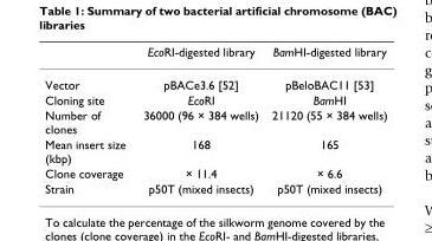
<table><thead><tr><td></td><td>EcoRI-digested library</td><td>BamHI-digested library</td></tr></thead><tbody><tr><td>Vector</td><td>pBACe3.6 [52]</td><td>pBeloBAC11 [53]</td></tr><tr><td>Cloning site</td><td>EcoRI</td><td>BamHI</td></tr><tr><td>Number of clones</td><td>36000 (96 × 384 wells)</td><td>21120 (55 × 384 wells)</td></tr><tr><td>Mean insert size (kbp)</td><td>168</td><td>165</td></tr><tr><td>Clone coverage</td><td>× 11.4</td><td>× 6.6</td></tr><tr><td>Strain</td><td>p50T (mixed insects)</td><td>p50T (mixed insects)</td></tr></tbody></table>